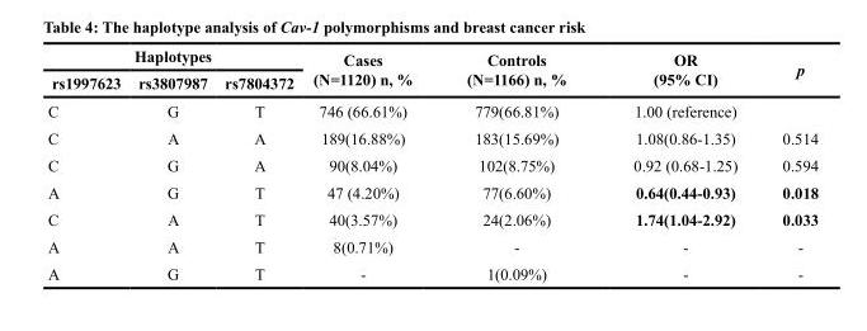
<table><thead><tr><td colspan="3">Haplotypes</td><td rowspan="2">Cases (N=1120) n, %</td><td rowspan="2">Controls (N=1166) n, %</td><td rowspan="2">OR (95% CI)</td><td rowspan="2">p</td></tr><tr><td>rs1997623</td><td>rs3807987</td><td>rs7804372</td></tr></thead><tbody><tr><td>C</td><td>G</td><td>T</td><td>746 (66.61%)</td><td>779(66.81%)</td><td>1.00 (reference)</td><td></td></tr><tr><td>C</td><td>A</td><td>A</td><td>189(16.88%)</td><td>183(15.69%)</td><td>1.08(0.86-1.35)</td><td>0.514</td></tr><tr><td>C</td><td>G</td><td>A</td><td>90(8.04%)</td><td>102(8.75%)</td><td>0.92 (0.68-1.25)</td><td>0.594</td></tr><tr><td>A</td><td>G</td><td>T</td><td>47 (4.20%)</td><td>77(6.60%)</td><td>0.64(0.44-0.93)</td><td>0.018</td></tr><tr><td>C</td><td>A</td><td>T</td><td>40(3.57%)</td><td>24(2.06%)</td><td>1.74(1.04-2.92)</td><td>0.033</td></tr><tr><td>A</td><td>A</td><td>T</td><td>8(0.71%)</td><td>-</td><td>-</td><td>-</td></tr><tr><td>A</td><td>G</td><td>T</td><td>-</td><td>1(0.09%)</td><td>-</td><td>-</td></tr></tbody></table>